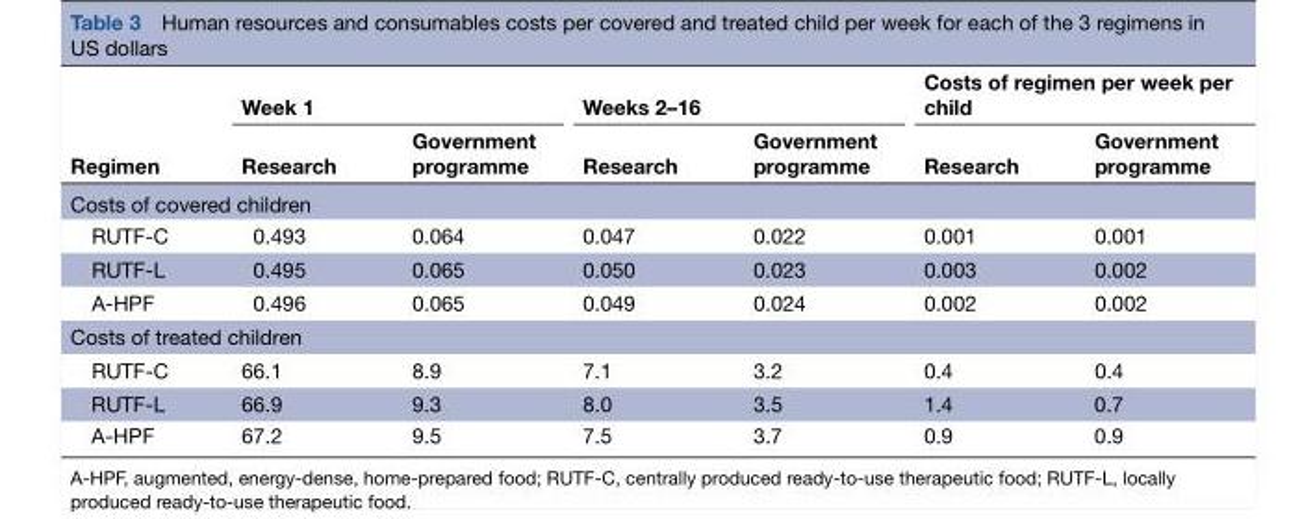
<table><thead><tr><td rowspan="2">Regimen</td><td colspan="2">Week 1</td><td colspan="2">Weeks 2–16</td><td colspan="2">Costs of regimen per week per child</td></tr><tr><td>Research</td><td>Government programme</td><td>Research</td><td>Government programme</td><td>Research</td><td>Government programme</td></tr></thead><tbody><tr><td colspan="7">Costs of covered children</td></tr><tr><td>RUTF-C</td><td>0.493</td><td>0.064</td><td>0.047</td><td>0.022</td><td>0.001</td><td>0.001</td></tr><tr><td>RUTF-L</td><td>0.495</td><td>0.065</td><td>0.050</td><td>0.023</td><td>0.003</td><td>0.002</td></tr><tr><td>A-HPF</td><td>0.496</td><td>0.065</td><td>0.049</td><td>0.024</td><td>0.002</td><td>0.002</td></tr><tr><td colspan="7">Costs of treated children</td></tr><tr><td>RUTF-C</td><td>66.1</td><td>8.9</td><td>7.1</td><td>3.2</td><td>0.4</td><td>0.4</td></tr><tr><td>RUTF-L</td><td>66.9</td><td>9.3</td><td>8.0</td><td>3.5</td><td>1.4</td><td>0.7</td></tr><tr><td>A-HPF</td><td>67.2</td><td>9.5</td><td>7.5</td><td>3.7</td><td>0.9</td><td>0.9</td></tr></tbody></table>